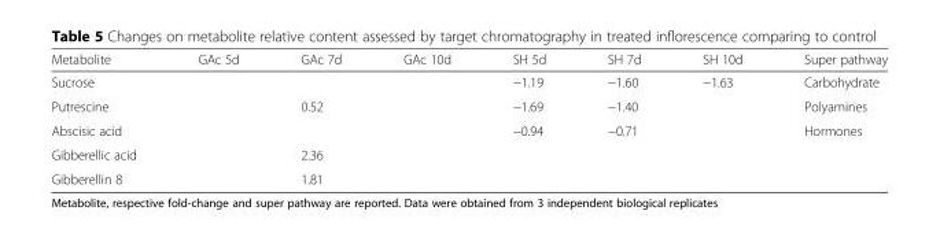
<table><thead><tr><td>Metabolite</td><td>GAc 5d</td><td>GAc 7d</td><td>GAc 10d</td><td>SH 5d</td><td>SH 7d</td><td>SH 10d</td><td>Super pathway</td></tr></thead><tbody><tr><td>Sucrose</td><td></td><td></td><td></td><td>−1.19</td><td>−1.60</td><td>−1.63</td><td>Carbohydrate</td></tr><tr><td>Putrescine</td><td></td><td>0.52</td><td></td><td>−1.69</td><td>−1.40</td><td></td><td>Polyamines</td></tr><tr><td>Abscisic acid</td><td></td><td></td><td></td><td>−0.94</td><td>−0.71</td><td></td><td>Hormones</td></tr><tr><td>Gibberellic acid</td><td></td><td>2.36</td><td></td><td></td><td></td><td></td><td rowspan="2"></td></tr><tr><td>Gibberellin 8</td><td></td><td>1.81</td><td></td><td></td><td></td><td></td></tr></tbody></table>